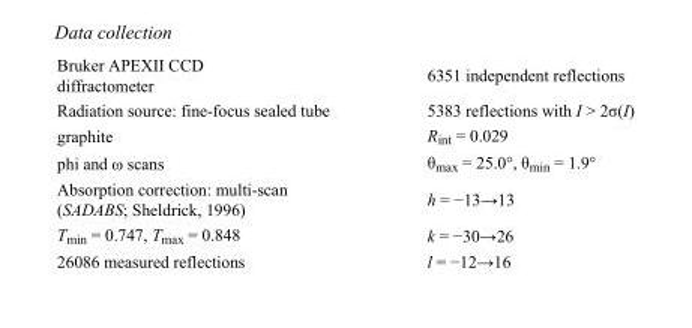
<table><tbody><tr><td>Bruker APEXII CCD diffractometer</td><td>6351 independent reflections</td></tr><tr><td>Radiation source: fine-focus sealed tube</td><td>5383 reflections with I &gt; 2σ(I)</td></tr><tr><td>graphite</td><td>R<sub>int</sub> = 0.029</td></tr><tr><td>phi and ω scans</td><td>θ<sub>max</sub> = 25.0°, θ<sub>min</sub> = 1.9°</td></tr><tr><td>Absorption correction: multi-scan (SADABS; Sheldrick, 1996)</td><td>h = −13→13</td></tr><tr><td>T<sub>min</sub> = 0.747, T<sub>max</sub> = 0.848</td><td>k = −30→26</td></tr><tr><td>26086 measured reflections</td><td>l = −12→16</td></tr></tbody></table>